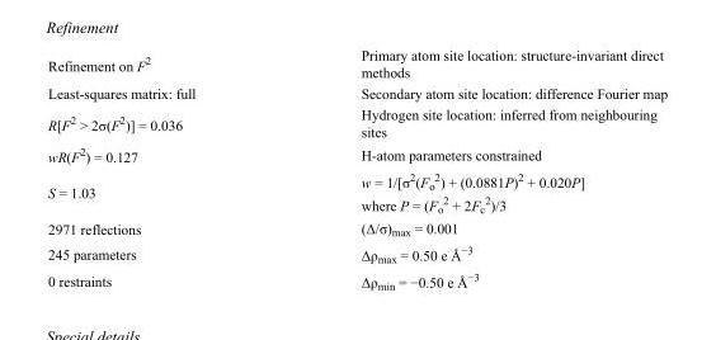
<table><tbody><tr><td>Refinement on F<sup>2</sup></td><td>Primary atom site location: structure-invariant direct methods</td></tr><tr><td>Least-squares matrix: full</td><td>Secondary atom site location: difference Fourier map</td></tr><tr><td>R[F<sup>2</sup> &gt; 2σ(F<sup>2</sup>)] = 0.036</td><td>Hydrogen site location: inferred from neighbouring sites</td></tr><tr><td>wR(F<sup>2</sup>) = 0.127</td><td>H-atom parameters constrained</td></tr><tr><td>S = 1.03</td><td>w = 1/[σ<sup>2</sup>(F<sub>o</sub> <sup>2</sup>) + (0.0881P)<sup>2</sup> + 0.020P] where P = (F<sub>o</sub> <sup>2</sup> + 2F<sub>c</sub> <sup>2</sup>)/3</td></tr><tr><td>2971 reflections</td><td>(Δ/σ)<sub>max</sub> = 0.001</td></tr><tr><td>245 parameters</td><td>Δρ<sub>max</sub> = 0.50 e Å<sup>−3</sup></td></tr><tr><td>0 restraints</td><td>Δρ<sub>min</sub> = −0.50 e Å<sup>−3</sup></td></tr></tbody></table>